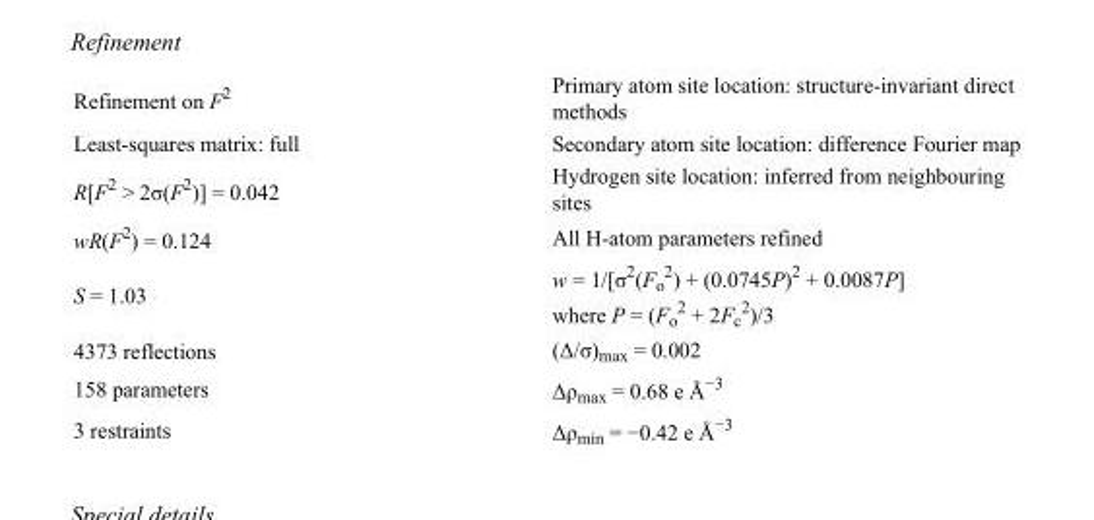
<table><tbody><tr><td>Refinement on F<sup>2</sup></td><td>Primary atom site location: structure-invariant direct methods</td></tr><tr><td>Least-squares matrix: full</td><td>Secondary atom site location: difference Fourier map</td></tr><tr><td>R[F<sup>2</sup> &gt; 2σ(F<sup>2</sup>)] = 0.042</td><td>Hydrogen site location: inferred from neighbouring sites</td></tr><tr><td>wR(F<sup>2</sup>) = 0.124</td><td>All H-atom parameters refined</td></tr><tr><td>S = 1.03</td><td>w = 1/[σ<sup>2</sup>(F<sub>o</sub> <sup>2</sup>) + (0.0745P)<sup>2</sup> + 0.0087P] where P = (F<sub>o</sub> <sup>2</sup> + 2F<sub>c</sub> <sup>2</sup>)/3</td></tr><tr><td>4373 reflections</td><td>(Δ/σ)<sub>max</sub> = 0.002</td></tr><tr><td>158 parameters</td><td>Δρ<sub>max</sub> = 0.68 e Å<sup>−3</sup></td></tr><tr><td>3 restraints</td><td>Δρ<sub>min</sub> = −0.42 e Å<sup>−3</sup></td></tr></tbody></table>